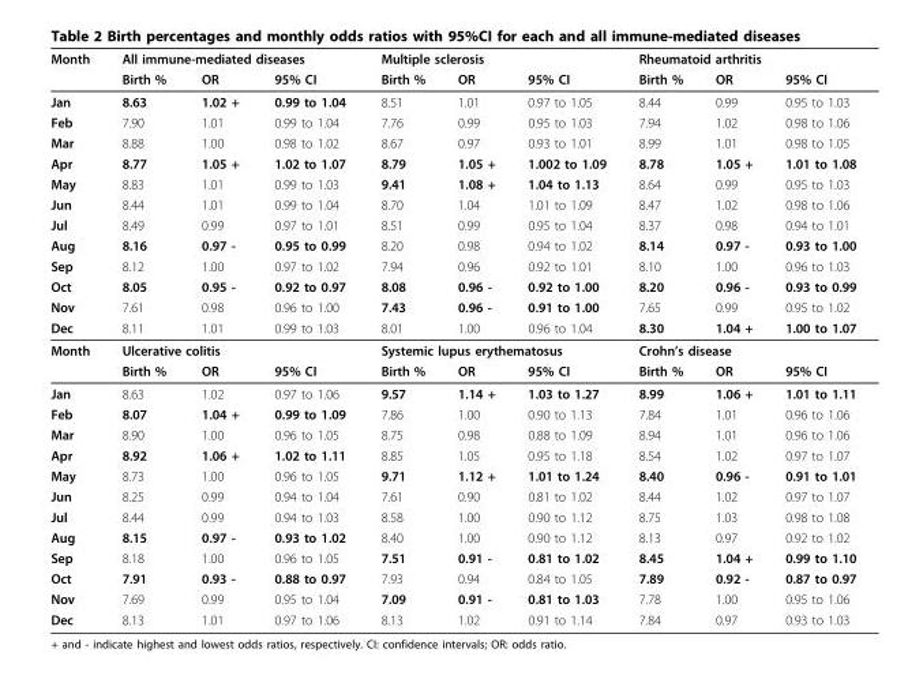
<table><thead><tr><td rowspan="2">Month</td><td colspan="3">All immune-mediated diseases</td><td colspan="3">Multiple sclerosis</td><td colspan="3">Rheumatoid arthritis</td></tr><tr><td>Birth %</td><td>OR</td><td>95% CI</td><td>Birth %</td><td>OR</td><td>95% CI</td><td>Birth %</td><td>OR</td><td>95% CI</td></tr></thead><tbody><tr><td>Jan</td><td>8.63</td><td>1.02 +</td><td>0.99 to 1.04</td><td>8.51</td><td>1.01</td><td>0.97 to 1.05</td><td>8.44</td><td>0.99</td><td>0.95 to 1.03</td></tr><tr><td>Feb</td><td>7.90</td><td>1.01</td><td>0.99 to 1.04</td><td>7.76</td><td>0.99</td><td>0.95 to 1.03</td><td>7.94</td><td>1.02</td><td>0.98 to 1.06</td></tr><tr><td>Mar</td><td>8.88</td><td>1.00</td><td>0.98 to 1.02</td><td>8.67</td><td>0.97</td><td>0.93 to 1.01</td><td>8.99</td><td>1.01</td><td>0.98 to 1.05</td></tr><tr><td>Apr</td><td>8.77</td><td>1.05 +</td><td>1.02 to 1.07</td><td>8.79</td><td>1.05 +</td><td>1.002 to 1.09</td><td>8.78</td><td>1.05 +</td><td>1.01 to 1.08</td></tr><tr><td>May</td><td>8.83</td><td>1.01</td><td>0.99 to 1.03</td><td>9.41</td><td>1.08 +</td><td>1.04 to 1.13</td><td>8.64</td><td>0.99</td><td>0.95 to 1.03</td></tr><tr><td>Jun</td><td>8.44</td><td>1.01</td><td>0.99 to 1.04</td><td>8.70</td><td>1.04</td><td>1.01 to 1.09</td><td>8.47</td><td>1.02</td><td>0.98 to 1.06</td></tr><tr><td>Jul</td><td>8.49</td><td>0.99</td><td>0.97 to 1.01</td><td>8.51</td><td>0.99</td><td>0.95 to 1.04</td><td>8.37</td><td>0.98</td><td>0.94 to 1.01</td></tr><tr><td>Aug</td><td>8.16</td><td>0.97 -</td><td>0.95 to 0.99</td><td>8.20</td><td>0.98</td><td>0.94 to 1.02</td><td>8.14</td><td>0.97 -</td><td>0.93 to 1.00</td></tr><tr><td>Sep</td><td>8.12</td><td>1.00</td><td>0.97 to 1.02</td><td>7.94</td><td>0.96</td><td>0.92 to 1.01</td><td>8.10</td><td>1.00</td><td>0.96 to 1.03</td></tr><tr><td>Oct</td><td>8.05</td><td>0.95 -</td><td>0.92 to 0.97</td><td>8.08</td><td>0.96 -</td><td>0.92 to 1.00</td><td>8.20</td><td>0.96 -</td><td>0.93 to 0.99</td></tr><tr><td>Nov</td><td>7.61</td><td>0.98</td><td>0.96 to 1.00</td><td>7.43</td><td>0.96 -</td><td>0.91 to 1.00</td><td>7.65</td><td>0.99</td><td>0.95 to 1.02</td></tr><tr><td>Dec</td><td>8.11</td><td>1.01</td><td>0.99 to 1.03</td><td>8.01</td><td>1.00</td><td>0.96 to 1.04</td><td>8.30</td><td>1.04 +</td><td>1.00 to 1.07</td></tr><tr><td rowspan="2">Month</td><td colspan="3">Ulcerative colitis</td><td colspan="3">Systemic lupus erythematosus</td><td colspan="3">Crohn’s disease</td></tr><tr><td>Birth %</td><td>OR</td><td>95% CI</td><td>Birth %</td><td>OR</td><td>95% CI</td><td>Birth %</td><td>OR</td><td>95% CI</td></tr><tr><td>Jan</td><td>8.63</td><td>1.02</td><td>0.97 to 1.06</td><td>9.57</td><td>1.14 +</td><td>1.03 to 1.27</td><td>8.99</td><td>1.06 +</td><td>1.01 to 1.11</td></tr><tr><td>Feb</td><td>8.07</td><td>1.04 +</td><td>0.99 to 1.09</td><td>7.86</td><td>1.00</td><td>0.90 to 1.13</td><td>7.84</td><td>1.01</td><td>0.96 to 1.06</td></tr><tr><td>Mar</td><td>8.90</td><td>1.00</td><td>0.96 to 1.05</td><td>8.75</td><td>0.98</td><td>0.88 to 1.09</td><td>8.94</td><td>1.01</td><td>0.96 to 1.06</td></tr><tr><td>Apr</td><td>8.92</td><td>1.06 +</td><td>1.02 to 1.11</td><td>8.85</td><td>1.05</td><td>0.95 to 1.18</td><td>8.54</td><td>1.02</td><td>0.97 to 1.07</td></tr><tr><td>May</td><td>8.73</td><td>1.00</td><td>0.96 to 1.05</td><td>9.71</td><td>1.12 +</td><td>1.01 to 1.24</td><td>8.40</td><td>0.96 -</td><td>0.91 to 1.01</td></tr><tr><td>Jun</td><td>8.25</td><td>0.99</td><td>0.94 to 1.04</td><td>7.61</td><td>0.90</td><td>0.81 to 1.02</td><td>8.44</td><td>1.02</td><td>0.97 to 1.07</td></tr><tr><td>Jul</td><td>8.44</td><td>0.99</td><td>0.94 to 1.03</td><td>8.58</td><td>1.00</td><td>0.90 to 1.12</td><td>8.75</td><td>1.03</td><td>0.98 to 1.08</td></tr><tr><td>Aug</td><td>8.15</td><td>0.97 -</td><td>0.93 to 1.02</td><td>8.40</td><td>1.00</td><td>0.90 to 1.12</td><td>8.13</td><td>0.97</td><td>0.92 to 1.02</td></tr><tr><td>Sep</td><td>8.18</td><td>1.00</td><td>0.96 to 1.05</td><td>7.51</td><td>0.91 -</td><td>0.81 to 1.02</td><td>8.45</td><td>1.04 +</td><td>0.99 to 1.10</td></tr><tr><td>Oct</td><td>7.91</td><td>0.93 -</td><td>0.88 to 0.97</td><td>7.93</td><td>0.94</td><td>0.84 to 1.05</td><td>7.89</td><td>0.92 -</td><td>0.87 to 0.97</td></tr><tr><td>Nov</td><td>7.69</td><td>0.99</td><td>0.95 to 1.04</td><td>7.09</td><td>0.91 -</td><td>0.81 to 1.03</td><td>7.78</td><td>1.00</td><td>0.95 to 1.06</td></tr><tr><td>Dec</td><td>8.13</td><td>1.01</td><td>0.97 to 1.06</td><td>8.13</td><td>1.02</td><td>0.91 to 1.14</td><td>7.84</td><td>0.97</td><td>0.93 to 1.03</td></tr></tbody></table>